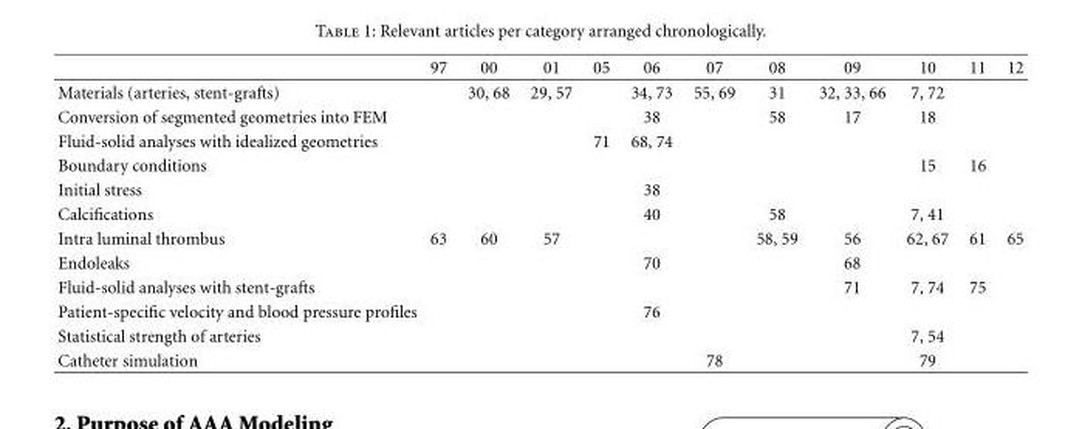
<table><thead><tr><td></td><td>97</td><td>00</td><td>01</td><td>05</td><td>06</td><td>07</td><td>08</td><td>09</td><td>10</td><td>11</td><td>12</td></tr></thead><tbody><tr><td>Materials (arteries, stent-grafts)</td><td></td><td>30, 68</td><td>29, 57</td><td></td><td>34, 73</td><td>55, 69</td><td>31</td><td>32, 33, 66</td><td>7, 72</td><td></td><td></td></tr><tr><td>Conversion of segmented geometries into FEM</td><td></td><td></td><td></td><td></td><td>38</td><td></td><td>58</td><td>17</td><td>18</td><td></td><td></td></tr><tr><td>Fluid-solid analyses with idealized geometries</td><td></td><td></td><td></td><td>71</td><td>68, 74</td><td></td><td></td><td></td><td></td><td></td><td></td></tr><tr><td>Boundary conditions</td><td></td><td></td><td></td><td></td><td></td><td></td><td></td><td></td><td>15</td><td>16</td><td></td></tr><tr><td>Initial stress</td><td></td><td></td><td></td><td></td><td>38</td><td></td><td></td><td></td><td></td><td></td><td></td></tr><tr><td>Calcifications</td><td></td><td></td><td></td><td></td><td>40</td><td></td><td>58</td><td></td><td>7, 41</td><td></td><td></td></tr><tr><td>Intra luminal thrombus</td><td>63</td><td>60</td><td>57</td><td></td><td></td><td></td><td>58, 59</td><td>56</td><td>62, 67</td><td>61</td><td>65</td></tr><tr><td>Endoleaks</td><td></td><td></td><td></td><td></td><td>70</td><td></td><td></td><td>68</td><td></td><td></td><td></td></tr><tr><td>Fluid-solid analyses with stent-grafts</td><td></td><td></td><td></td><td></td><td></td><td></td><td></td><td>71</td><td>7, 74</td><td>75</td><td></td></tr><tr><td>Patient-specific velocity and blood pressure profiles</td><td></td><td></td><td></td><td></td><td>76</td><td></td><td></td><td></td><td></td><td></td><td></td></tr><tr><td>Statistical strength of arteries</td><td></td><td></td><td></td><td></td><td></td><td></td><td></td><td></td><td>7, 54</td><td></td><td></td></tr><tr><td>Catheter simulation</td><td></td><td></td><td></td><td></td><td></td><td>78</td><td></td><td></td><td>79</td><td></td><td></td></tr></tbody></table>